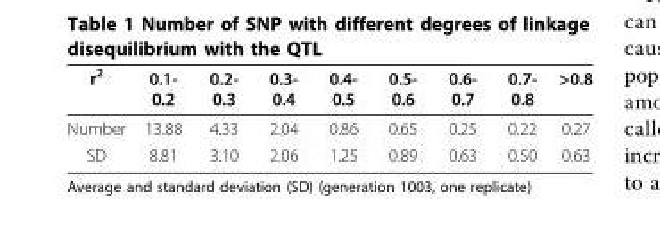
<table><thead><tr><td>r<sup>2</sup></td><td>0.1- 0.2</td><td>0.2- 0.3</td><td>0.3- 0.4</td><td>0.4- 0.5</td><td>0.5- 0.6</td><td>0.6- 0.7</td><td>0.7- 0.8</td><td>&gt;0.8</td></tr></thead><tbody><tr><td>Number</td><td>13.88</td><td>4.33</td><td>2.04</td><td>0.86</td><td>0.65</td><td>0.25</td><td>0.22</td><td>0.27</td></tr><tr><td>SD</td><td>8.81</td><td>3.10</td><td>2.06</td><td>1.25</td><td>0.89</td><td>0.63</td><td>0.50</td><td>0.63</td></tr></tbody></table>